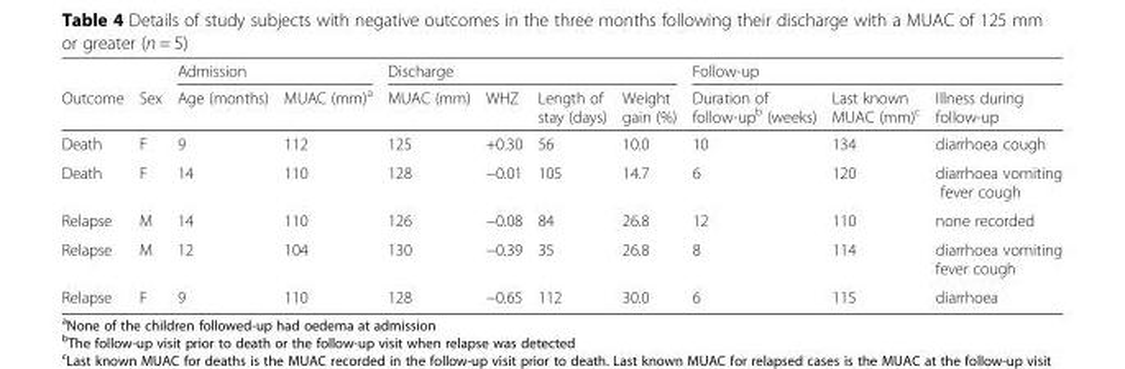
<table><thead><tr><td rowspan="2">Outcome</td><td rowspan="2">Sex</td><td colspan="2">Admission</td><td colspan="4">Discharge</td><td colspan="3">Follow-up</td></tr><tr><td>Age (months)</td><td>MUAC (mm)<sup>a</sup></td><td>MUAC (mm)</td><td>WHZ</td><td>Length of stay (days)</td><td>Weight gain (%)</td><td>Duration of follow-up<sup>b</sup> (weeks)</td><td>Last known MUAC (mm)<sup>c</sup></td><td>Illness during follow-up</td></tr></thead><tbody><tr><td>Death</td><td>F</td><td>9</td><td>112</td><td>125</td><td>+0.30</td><td>56</td><td>10.0</td><td>10</td><td>134</td><td>diarrhoea cough</td></tr><tr><td>Death</td><td>F</td><td>14</td><td>110</td><td>128</td><td>−0.01</td><td>105</td><td>14.7</td><td>6</td><td>120</td><td>diarrhoea vomiting fever cough</td></tr><tr><td>Relapse</td><td>M</td><td>14</td><td>110</td><td>126</td><td>−0.08</td><td>84</td><td>26.8</td><td>12</td><td>110</td><td>none recorded</td></tr><tr><td>Relapse</td><td>M</td><td>12</td><td>104</td><td>130</td><td>−0.39</td><td>35</td><td>26.8</td><td>8</td><td>114</td><td>diarrhoea vomiting fever cough</td></tr><tr><td>Relapse</td><td>F</td><td>9</td><td>110</td><td>128</td><td>−0.65</td><td>112</td><td>30.0</td><td>6</td><td>115</td><td>diarrhoea</td></tr></tbody></table>